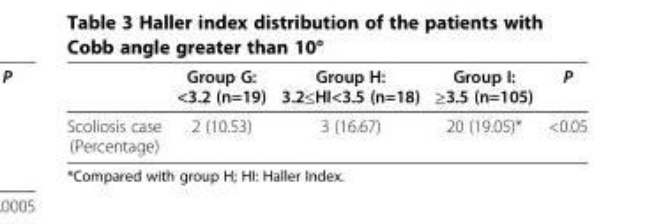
<table><thead><tr><td></td><td>Group G: &lt;3.2 (n=19)</td><td>Group H: 3.2≤HI&lt;3.5 (n=18)</td><td>Group I: ≥3.5 (n=105)</td><td>P</td></tr></thead><tbody><tr><td>Scoliosis case (Percentage)</td><td>2 (10.53)</td><td>3 (16.67)</td><td>20 (19.05)*</td><td>&lt;0.05</td></tr></tbody></table>